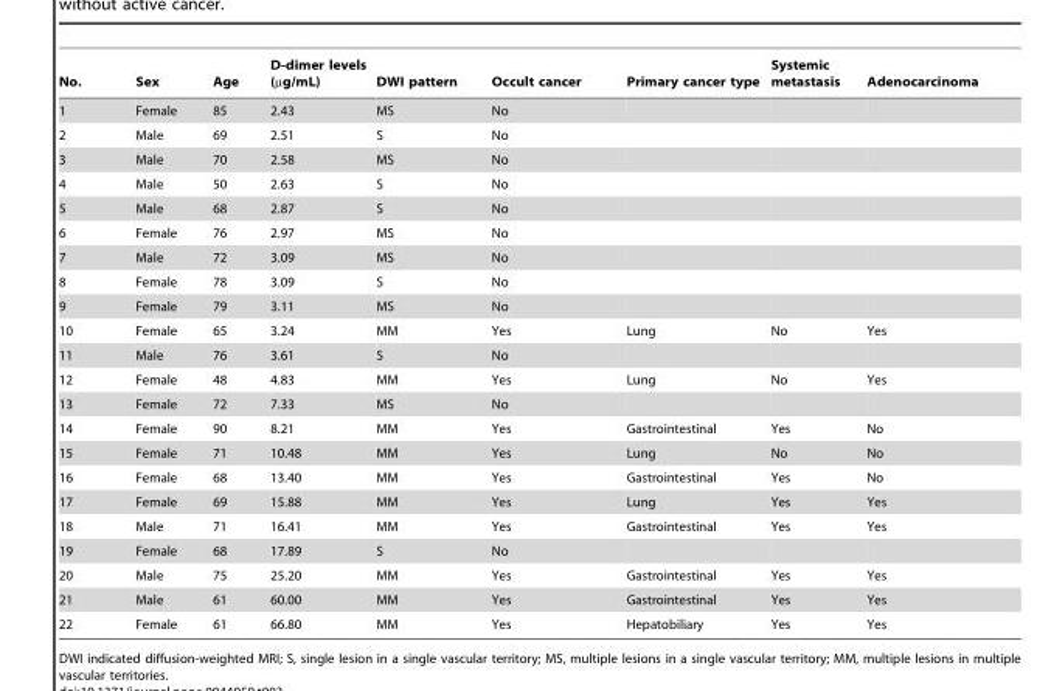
<table><thead><tr><td>No.</td><td>Sex</td><td>Age</td><td>D-dimer levels (µg/mL)</td><td>DWI pattern</td><td>Occult cancer</td><td>Primary cancer type</td><td>Systemic metastasis</td><td>Adenocarcinoma</td></tr></thead><tbody><tr><td>1</td><td>Female</td><td>85</td><td>2.43</td><td>MS</td><td>No</td><td></td><td></td><td></td></tr><tr><td>2</td><td>Male</td><td>69</td><td>2.51</td><td>S</td><td>No</td><td></td><td></td><td></td></tr><tr><td>3</td><td>Male</td><td>70</td><td>2.58</td><td>MS</td><td>No</td><td></td><td></td><td></td></tr><tr><td>4</td><td>Male</td><td>50</td><td>2.63</td><td>S</td><td>No</td><td></td><td></td><td></td></tr><tr><td>5</td><td>Male</td><td>68</td><td>2.87</td><td>S</td><td>No</td><td></td><td></td><td></td></tr><tr><td>6</td><td>Female</td><td>76</td><td>2.97</td><td>MS</td><td>No</td><td></td><td></td><td></td></tr><tr><td>7</td><td>Male</td><td>72</td><td>3.09</td><td>MS</td><td>No</td><td></td><td></td><td></td></tr><tr><td>8</td><td>Female</td><td>78</td><td>3.09</td><td>S</td><td>No</td><td></td><td></td><td></td></tr><tr><td>9</td><td>Female</td><td>79</td><td>3.11</td><td>MS</td><td>No</td><td></td><td></td><td></td></tr><tr><td>10</td><td>Female</td><td>65</td><td>3.24</td><td>MM</td><td>Yes</td><td>Lung</td><td>No</td><td>Yes</td></tr><tr><td>11</td><td>Male</td><td>76</td><td>3.61</td><td>S</td><td>No</td><td></td><td></td><td></td></tr><tr><td>12</td><td>Female</td><td>48</td><td>4.83</td><td>MM</td><td>Yes</td><td>Lung</td><td>No</td><td>Yes</td></tr><tr><td>13</td><td>Female</td><td>72</td><td>7.33</td><td>MS</td><td>No</td><td></td><td></td><td></td></tr><tr><td>14</td><td>Female</td><td>90</td><td>8.21</td><td>MM</td><td>Yes</td><td>Gastrointestinal</td><td>Yes</td><td>No</td></tr><tr><td>15</td><td>Female</td><td>71</td><td>10.48</td><td>MM</td><td>Yes</td><td>Lung</td><td>No</td><td>No</td></tr><tr><td>16</td><td>Female</td><td>68</td><td>13.40</td><td>MM</td><td>Yes</td><td>Gastrointestinal</td><td>Yes</td><td>No</td></tr><tr><td>17</td><td>Female</td><td>69</td><td>15.88</td><td>MM</td><td>Yes</td><td>Lung</td><td>Yes</td><td>Yes</td></tr><tr><td>18</td><td>Male</td><td>71</td><td>16.41</td><td>MM</td><td>Yes</td><td>Gastrointestinal</td><td>Yes</td><td>Yes</td></tr><tr><td>19</td><td>Female</td><td>68</td><td>17.89</td><td>S</td><td>No</td><td></td><td></td><td></td></tr><tr><td>20</td><td>Male</td><td>75</td><td>25.20</td><td>MM</td><td>Yes</td><td>Gastrointestinal</td><td>Yes</td><td>Yes</td></tr><tr><td>21</td><td>Male</td><td>61</td><td>60.00</td><td>MM</td><td>Yes</td><td>Gastrointestinal</td><td>Yes</td><td>Yes</td></tr><tr><td>22</td><td>Female</td><td>61</td><td>66.80</td><td>MM</td><td>Yes</td><td>Hepatobiliary</td><td>Yes</td><td>Yes</td></tr></tbody></table>